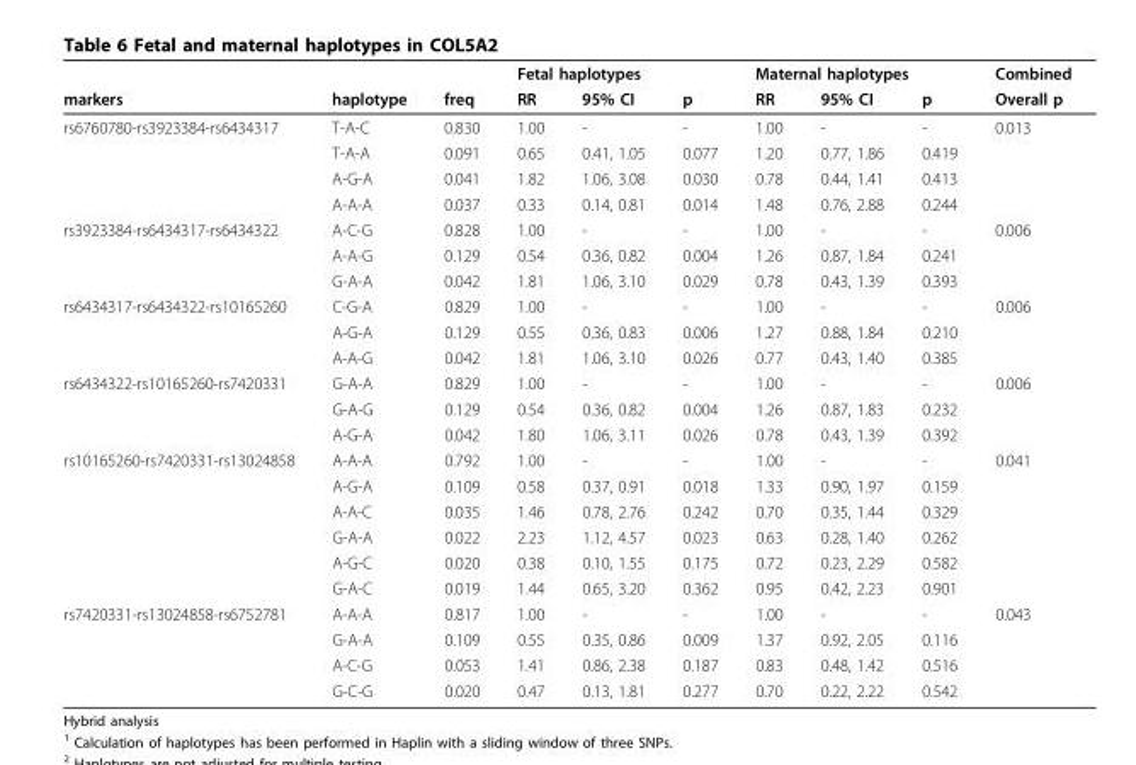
<table><thead><tr><td rowspan="2">markers</td><td rowspan="2">haplotype</td><td rowspan="2">freq</td><td colspan="3">Fetal haplotypes</td><td colspan="3">Maternal haplotypes</td><td rowspan="2">Combined Overall p</td></tr><tr><td>RR</td><td>95% CI</td><td>p</td><td>RR</td><td>95% CI</td><td>p</td></tr></thead><tbody><tr><td rowspan="4">rs6760780-rs3923384-rs6434317</td><td>T-A-C</td><td>0.830</td><td>1.00</td><td>-</td><td>-</td><td>1.00</td><td>-</td><td>-</td><td>0.013</td></tr><tr><td>T-A-A</td><td>0.091</td><td>0.65</td><td>0.41, 1.05</td><td>0.077</td><td>1.20</td><td>0.77, 1.86</td><td>0.419</td><td></td></tr><tr><td>A-G-A</td><td>0.041</td><td>1.82</td><td>1.06, 3.08</td><td>0.030</td><td>0.78</td><td>0.44, 1.41</td><td>0.413</td><td></td></tr><tr><td>A-A-A</td><td>0.037</td><td>0.33</td><td>0.14, 0.81</td><td>0.014</td><td>1.48</td><td>0.76, 2.88</td><td>0.244</td><td></td></tr><tr><td rowspan="3">rs3923384-rs6434317-rs6434322</td><td>A-C-G</td><td>0.828</td><td>1.00</td><td>-</td><td>-</td><td>1.00</td><td>-</td><td>-</td><td>0.006</td></tr><tr><td>A-A-G</td><td>0.129</td><td>0.54</td><td>0.36, 0.82</td><td>0.004</td><td>1.26</td><td>0.87, 1.84</td><td>0.241</td><td></td></tr><tr><td>G-A-A</td><td>0.042</td><td>1.81</td><td>1.06, 3.10</td><td>0.029</td><td>0.78</td><td>0.43, 1.39</td><td>0.393</td><td></td></tr><tr><td rowspan="3">rs6434317-rs6434322-rs10165260</td><td>C-G-A</td><td>0.829</td><td>1.00</td><td>-</td><td>-</td><td>1.00</td><td>-</td><td>-</td><td>0.006</td></tr><tr><td>A-G-A</td><td>0.129</td><td>0.55</td><td>0.36, 0.83</td><td>0.006</td><td>1.27</td><td>0.88, 1.84</td><td>0.210</td><td></td></tr><tr><td>A-A-G</td><td>0.042</td><td>1.81</td><td>1.06, 3.10</td><td>0.026</td><td>0.77</td><td>0.43, 1.40</td><td>0.385</td><td></td></tr><tr><td rowspan="3">rs6434322-rs10165260-rs7420331</td><td>G-A-A</td><td>0.829</td><td>1.00</td><td>-</td><td>-</td><td>1.00</td><td>-</td><td>-</td><td>0.006</td></tr><tr><td>G-A-G</td><td>0.129</td><td>0.54</td><td>0.36, 0.82</td><td>0.004</td><td>1.26</td><td>0.87, 1.83</td><td>0.232</td><td></td></tr><tr><td>A-G-A</td><td>0.042</td><td>1.80</td><td>1.06, 3.11</td><td>0.026</td><td>0.78</td><td>0.43, 1.39</td><td>0.392</td><td></td></tr><tr><td rowspan="6">rs10165260-rs7420331-rs13024858</td><td>A-A-A</td><td>0.792</td><td>1.00</td><td>-</td><td>-</td><td>1.00</td><td>-</td><td>-</td><td>0.041</td></tr><tr><td>A-G-A</td><td>0.109</td><td>0.58</td><td>0.37, 0.91</td><td>0.018</td><td>1.33</td><td>0.90, 1.97</td><td>0.159</td><td></td></tr><tr><td>A-A-C</td><td>0.035</td><td>1.46</td><td>0.78, 2.76</td><td>0.242</td><td>0.70</td><td>0.35, 1.44</td><td>0.329</td><td></td></tr><tr><td>G-A-A</td><td>0.022</td><td>2.23</td><td>1.12, 4.57</td><td>0.023</td><td>0.63</td><td>0.28, 1.40</td><td>0.262</td><td></td></tr><tr><td>A-G-C</td><td>0.020</td><td>0.38</td><td>0.10, 1.55</td><td>0.175</td><td>0.72</td><td>0.23, 2.29</td><td>0.582</td><td></td></tr><tr><td>G-A-C</td><td>0.019</td><td>1.44</td><td>0.65, 3.20</td><td>0.362</td><td>0.95</td><td>0.42, 2.23</td><td>0.901</td><td></td></tr><tr><td rowspan="4">rs7420331-rs13024858-rs6752781</td><td>A-A-A</td><td>0.817</td><td>1.00</td><td>-</td><td>-</td><td>1.00</td><td>-</td><td>-</td><td>0.043</td></tr><tr><td>G-A-A</td><td>0.109</td><td>0.55</td><td>0.35, 0.86</td><td>0.009</td><td>1.37</td><td>0.92, 2.05</td><td>0.116</td><td></td></tr><tr><td>A-C-G</td><td>0.053</td><td>1.41</td><td>0.86, 2.38</td><td>0.187</td><td>0.83</td><td>0.48, 1.42</td><td>0.516</td><td></td></tr><tr><td>G-C-G</td><td>0.020</td><td>0.47</td><td>0.13, 1.81</td><td>0.277</td><td>0.70</td><td>0.22, 2.22</td><td>0.542</td><td></td></tr></tbody></table>